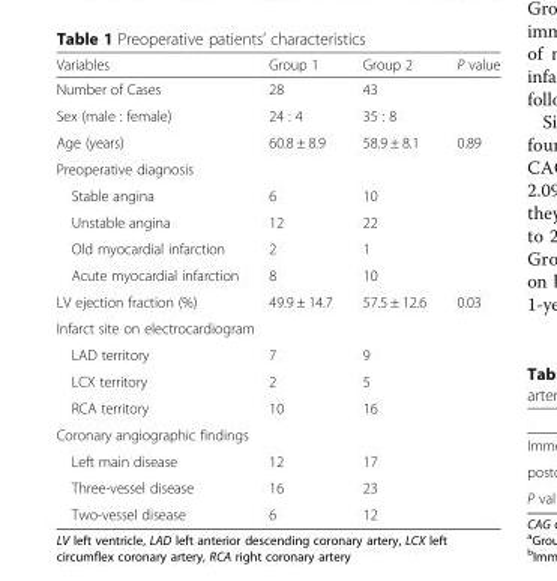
<table><thead><tr><td>Variables</td><td>Group 1</td><td>Group 2</td><td>P value</td></tr></thead><tbody><tr><td>Number of Cases</td><td>28</td><td>43</td><td></td></tr><tr><td>Sex (male : female)</td><td>24 : 4</td><td>35 : 8</td><td></td></tr><tr><td>Age (years)</td><td>60.8 ± 8.9</td><td>58.9 ± 8.1</td><td>0.89</td></tr><tr><td colspan="4">Preoperative diagnosis</td></tr><tr><td>Stable angina</td><td>6</td><td>10</td><td></td></tr><tr><td>Unstable angina</td><td>12</td><td>22</td><td></td></tr><tr><td>Old myocardial infarction</td><td>2</td><td>1</td><td></td></tr><tr><td>Acute myocardial infarction</td><td>8</td><td>10</td><td></td></tr><tr><td>LV ejection fraction (%)</td><td>49.9 ± 14.7</td><td>57.5 ± 12.6</td><td>0.03</td></tr><tr><td colspan="4">Infarct site on electrocardiogram</td></tr><tr><td>LAD territory</td><td>7</td><td>9</td><td></td></tr><tr><td>LCX territory</td><td>2</td><td>5</td><td></td></tr><tr><td>RCA territory</td><td>10</td><td>16</td><td></td></tr><tr><td colspan="4">Coronary angiographic findings</td></tr><tr><td>Left main disease</td><td>12</td><td>17</td><td></td></tr><tr><td>Three-vessel disease</td><td>16</td><td>23</td><td></td></tr><tr><td>Two-vessel disease</td><td>6</td><td>12</td><td></td></tr></tbody></table>